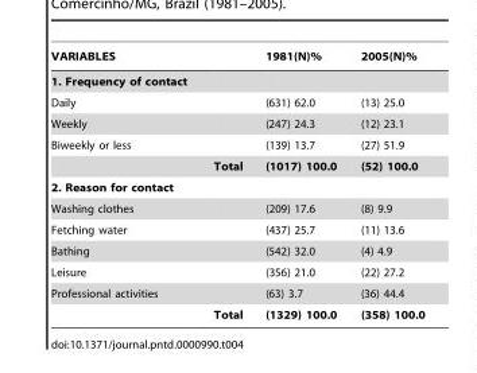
<table><thead><tr><td>VARIABLES</td><td></td><td>1981(N)%</td><td>2005(N)%</td></tr></thead><tbody><tr><td colspan="4">1. Frequency of contact</td></tr><tr><td>Daily</td><td></td><td>(631) 62.0</td><td>(13) 25.0</td></tr><tr><td>Weekly</td><td></td><td>(247) 24.3</td><td>(12) 23.1</td></tr><tr><td rowspan="2">Biweekly or less</td><td></td><td>(139) 13.7</td><td>(27) 51.9</td></tr><tr><td>Total</td><td>(1017) 100.0</td><td>(52) 100.0</td></tr><tr><td colspan="4">2. Reason for contact</td></tr><tr><td>Washing clothes</td><td></td><td>(209) 17.6</td><td>(8) 9.9</td></tr><tr><td>Fetching water</td><td></td><td>(437) 25.7</td><td>(11) 13.6</td></tr><tr><td>Bathing</td><td></td><td>(542) 32.0</td><td>(4) 4.9</td></tr><tr><td>Leisure</td><td></td><td>(356) 21.0</td><td>(22) 27.2</td></tr><tr><td rowspan="2">Professional activities</td><td></td><td>(63) 3.7</td><td>(36) 44.4</td></tr><tr><td>Total</td><td>(1329) 100.0</td><td>(358) 100.0</td></tr></tbody></table>